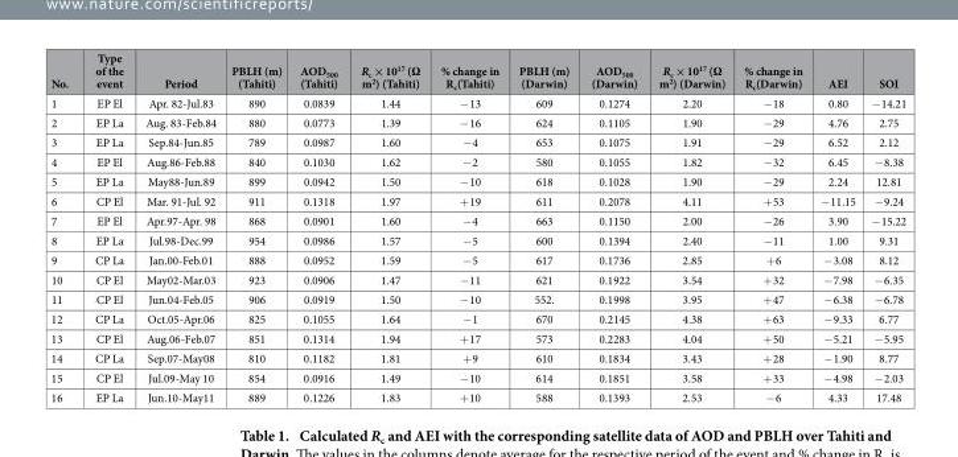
<table><thead><tr><td>No.</td><td>Type of the event</td><td>Period</td><td>PBLH (m) (Tahiti)</td><td>AOD<sub>500</sub> (Tahiti)</td><td>R<sub>c</sub> × 10<sup>17</sup> (Ω m<sup>2</sup>) (Tahiti)</td><td>% change in R<sub>c</sub>(Tahiti)</td><td>PBLH (m) (Darwin)</td><td>AOD<sub>500</sub> (Darwin)</td><td>R<sub>c</sub> × 10<sup>17</sup> (Ω m<sup>2</sup>) (Darwin)</td><td>% change in R<sub>c</sub>(Darwin)</td><td>AEI</td><td>SOI</td></tr></thead><tbody><tr><td>1</td><td>EP El</td><td>Apr. 82-Jul.83</td><td>890</td><td>0.0839</td><td>1.44</td><td>− 13</td><td>609</td><td>0.1274</td><td>2.20</td><td>− 18</td><td>0.80</td><td>− 14.21</td></tr><tr><td>2</td><td>EP La</td><td>Aug. 83-Feb.84</td><td>880</td><td>0.0773</td><td>1.39</td><td>− 16</td><td>624</td><td>0.1105</td><td>1.90</td><td>− 29</td><td>4.76</td><td>2.75</td></tr><tr><td>3</td><td>EP La</td><td>Sep.84-Jun.85</td><td>789</td><td>0.0987</td><td>1.60</td><td>− 4</td><td>653</td><td>0.1075</td><td>1.91</td><td>− 29</td><td>6.52</td><td>2.12</td></tr><tr><td>4</td><td>EP El</td><td>Aug.86-Feb.88</td><td>840</td><td>0.1030</td><td>1.62</td><td>− 2</td><td>580</td><td>0.1055</td><td>1.82</td><td>− 32</td><td>6.45</td><td>− 8.38</td></tr><tr><td>5</td><td>EP La</td><td>May88-Jun.89</td><td>899</td><td>0.0942</td><td>1.50</td><td>− 10</td><td>618</td><td>0.1028</td><td>1.90</td><td>− 29</td><td>2.24</td><td>12.81</td></tr><tr><td>6</td><td>CP El</td><td>Mar. 91-Jul. 92</td><td>911</td><td>0.1318</td><td>1.97</td><td>+ 19</td><td>611</td><td>0.2078</td><td>4.11</td><td>+ 53</td><td>− 11.15</td><td>− 9.24</td></tr><tr><td>7</td><td>EP El</td><td>Apr.97-Apr. 98</td><td>868</td><td>0.0901</td><td>1.60</td><td>− 4</td><td>663</td><td>0.1150</td><td>2.00</td><td>− 26</td><td>3.90</td><td>− 15.22</td></tr><tr><td>8</td><td>EP La</td><td>Jul.98-Dec.99</td><td>954</td><td>0.0986</td><td>1.57</td><td>− 5</td><td>600</td><td>0.1394</td><td>2.40</td><td>− 11</td><td>1.00</td><td>9.31</td></tr><tr><td>9</td><td>CP La</td><td>Jan.00-Feb.01</td><td>888</td><td>0.0952</td><td>1.59</td><td>− 5</td><td>617</td><td>0.1736</td><td>2.85</td><td>+ 6</td><td>− 3.08</td><td>8.12</td></tr><tr><td>10</td><td>CP El</td><td>May02-Mar.03</td><td>923</td><td>0.0906</td><td>1.47</td><td>− 11</td><td>621</td><td>0.1922</td><td>3.54</td><td>+ 32</td><td>− 7.98</td><td>− 6.35</td></tr><tr><td>11</td><td>CP El</td><td>Jun.04-Feb.05</td><td>906</td><td>0.0919</td><td>1.50</td><td>− 10</td><td>552.</td><td>0.1998</td><td>3.95</td><td>+ 47</td><td>− 6.38</td><td>− 6.78</td></tr><tr><td>12</td><td>CP La</td><td>Oct.05-Apr.06</td><td>825</td><td>0.1055</td><td>1.64</td><td>− 1</td><td>670</td><td>0.2145</td><td>4.38</td><td>+ 63</td><td>− 9.33</td><td>6.77</td></tr><tr><td>13</td><td>CP El</td><td>Aug.06-Feb.07</td><td>851</td><td>0.1314</td><td>1.94</td><td>+ 17</td><td>573</td><td>0.2283</td><td>4.04</td><td>+ 50</td><td>− 5.21</td><td>− 5.95</td></tr><tr><td>14</td><td>CP La</td><td>Sep.07-May08</td><td>810</td><td>0.1182</td><td>1.81</td><td>+ 9</td><td>610</td><td>0.1834</td><td>3.43</td><td>+ 28</td><td>− 1.90</td><td>8.77</td></tr><tr><td>15</td><td>CP El</td><td>Jul.09-May 10</td><td>854</td><td>0.0916</td><td>1.49</td><td>− 10</td><td>614</td><td>0.1851</td><td>3.58</td><td>+ 33</td><td>− 4.98</td><td>− 2.03</td></tr><tr><td>16</td><td>EP La</td><td>Jun.10-May11</td><td>889</td><td>0.1226</td><td>1.83</td><td>+ 10</td><td>588</td><td>0.1393</td><td>2.53</td><td>− 6</td><td>4.33</td><td>17.48</td></tr></tbody></table>